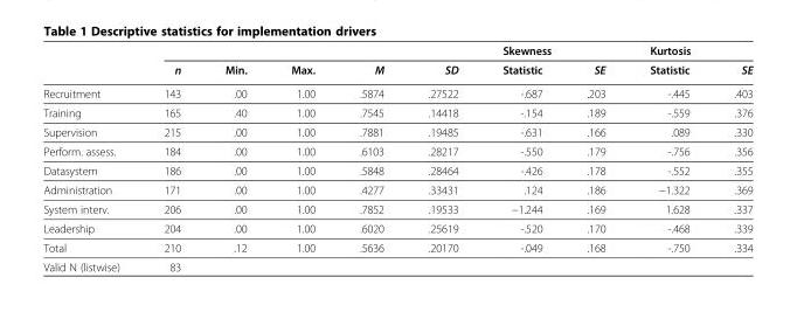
<table><thead><tr><td rowspan="2"></td><td rowspan="2">n</td><td rowspan="2">Min.</td><td rowspan="2">Max.</td><td rowspan="2">M</td><td rowspan="2">SD</td><td colspan="2">Skewness</td><td colspan="2">Kurtosis</td></tr><tr><td>Statistic</td><td>SE</td><td>Statistic</td><td>SE</td></tr></thead><tbody><tr><td>Recruitment</td><td>143</td><td>.00</td><td>1.00</td><td>.5874</td><td>.27522</td><td>-.687</td><td>.203</td><td>-.445</td><td>.403</td></tr><tr><td>Training</td><td>165</td><td>.40</td><td>1.00</td><td>.7545</td><td>.14418</td><td>-.154</td><td>.189</td><td>-.559</td><td>.376</td></tr><tr><td>Supervision</td><td>215</td><td>.00</td><td>1.00</td><td>.7881</td><td>.19485</td><td>-.631</td><td>.166</td><td>.089</td><td>.330</td></tr><tr><td>Perform. assess.</td><td>184</td><td>.00</td><td>1.00</td><td>.6103</td><td>.28217</td><td>-.550</td><td>.179</td><td>-.756</td><td>.356</td></tr><tr><td>Datasystem</td><td>186</td><td>.00</td><td>1.00</td><td>.5848</td><td>.28464</td><td>-.426</td><td>.178</td><td>-.552</td><td>.355</td></tr><tr><td>Administration</td><td>171</td><td>.00</td><td>1.00</td><td>.4277</td><td>.33431</td><td>.124</td><td>.186</td><td>−1.322</td><td>.369</td></tr><tr><td>System interv.</td><td>206</td><td>.00</td><td>1.00</td><td>.7852</td><td>.19533</td><td>−1.244</td><td>.169</td><td>1.628</td><td>.337</td></tr><tr><td>Leadership</td><td>204</td><td>.00</td><td>1.00</td><td>.6020</td><td>.25619</td><td>-.520</td><td>.170</td><td>-.468</td><td>.339</td></tr><tr><td>Total</td><td>210</td><td>.12</td><td>1.00</td><td>.5636</td><td>.20170</td><td>-.049</td><td>.168</td><td>-.750</td><td>.334</td></tr><tr><td>Valid N (listwise)</td><td>83</td><td></td><td></td><td></td><td></td><td></td><td></td><td></td><td></td></tr></tbody></table>